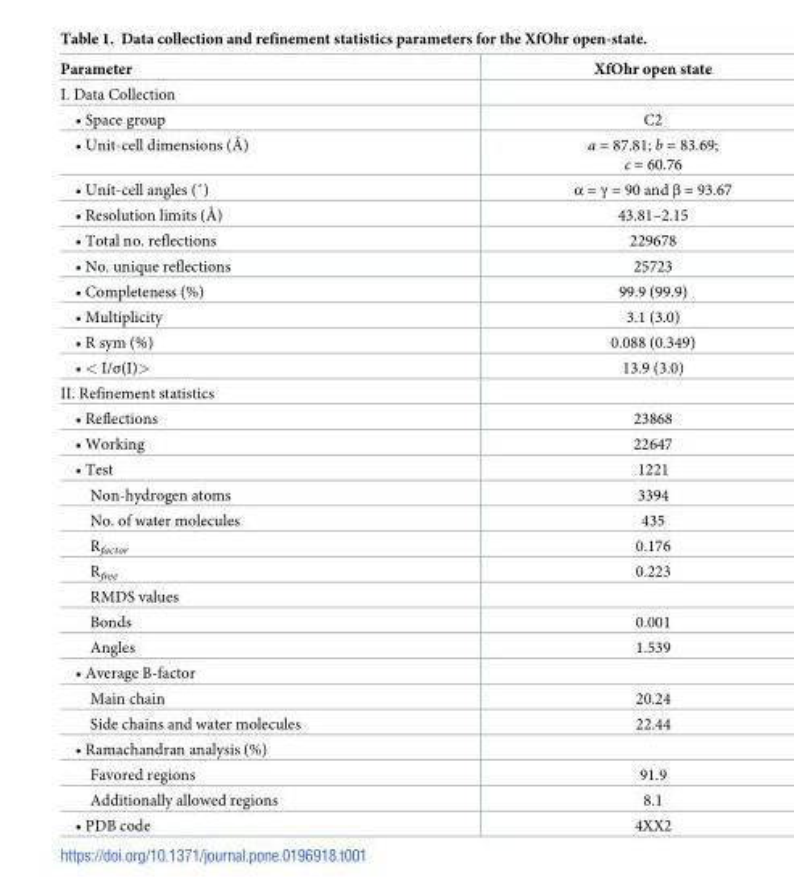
<table><thead><tr><td>Parameter</td><td>XfOhr open state</td></tr></thead><tbody><tr><td colspan="2">I. Data Collection</td></tr><tr><td>• Space group</td><td>C2</td></tr><tr><td>• Unit-cell dimensions (Å)</td><td>a = 87.81; b = 83.69; c = 60.76</td></tr><tr><td>• Unit-cell angles (˚)</td><td>α = γ = 90 and β = 93.67</td></tr><tr><td>• Resolution limits (Å)</td><td>43.81–2.15</td></tr><tr><td>• Total no. reflections</td><td>229678</td></tr><tr><td>• No. unique reflections</td><td>25723</td></tr><tr><td>• Completeness (%)</td><td>99.9 (99.9)</td></tr><tr><td>• Multiplicity</td><td>3.1 (3.0)</td></tr><tr><td>• R sym (%)</td><td>0.088 (0.349)</td></tr><tr><td>• &lt; I/σ(I)&gt;</td><td>13.9 (3.0)</td></tr><tr><td colspan="2">II. Refinement statistics</td></tr><tr><td>• Reflections</td><td>23868</td></tr><tr><td>• Working</td><td>22647</td></tr><tr><td>• Test</td><td>1221</td></tr><tr><td>Non-hydrogen atoms</td><td>3394</td></tr><tr><td>No. of water molecules</td><td>435</td></tr><tr><td>R<sub>factor</sub></td><td>0.176</td></tr><tr><td>R<sub>free</sub></td><td>0.223</td></tr><tr><td colspan="2">RMDS values</td></tr><tr><td>Bonds</td><td>0.001</td></tr><tr><td>Angles</td><td>1.539</td></tr><tr><td colspan="2">• Average B-factor</td></tr><tr><td>Main chain</td><td>20.24</td></tr><tr><td>Side chains and water molecules</td><td>22.44</td></tr><tr><td colspan="2">• Ramachandran analysis (%)</td></tr><tr><td>Favored regions</td><td>91.9</td></tr><tr><td>Additionally allowed regions</td><td>8.1</td></tr><tr><td>• PDB code</td><td>4XX2</td></tr></tbody></table>